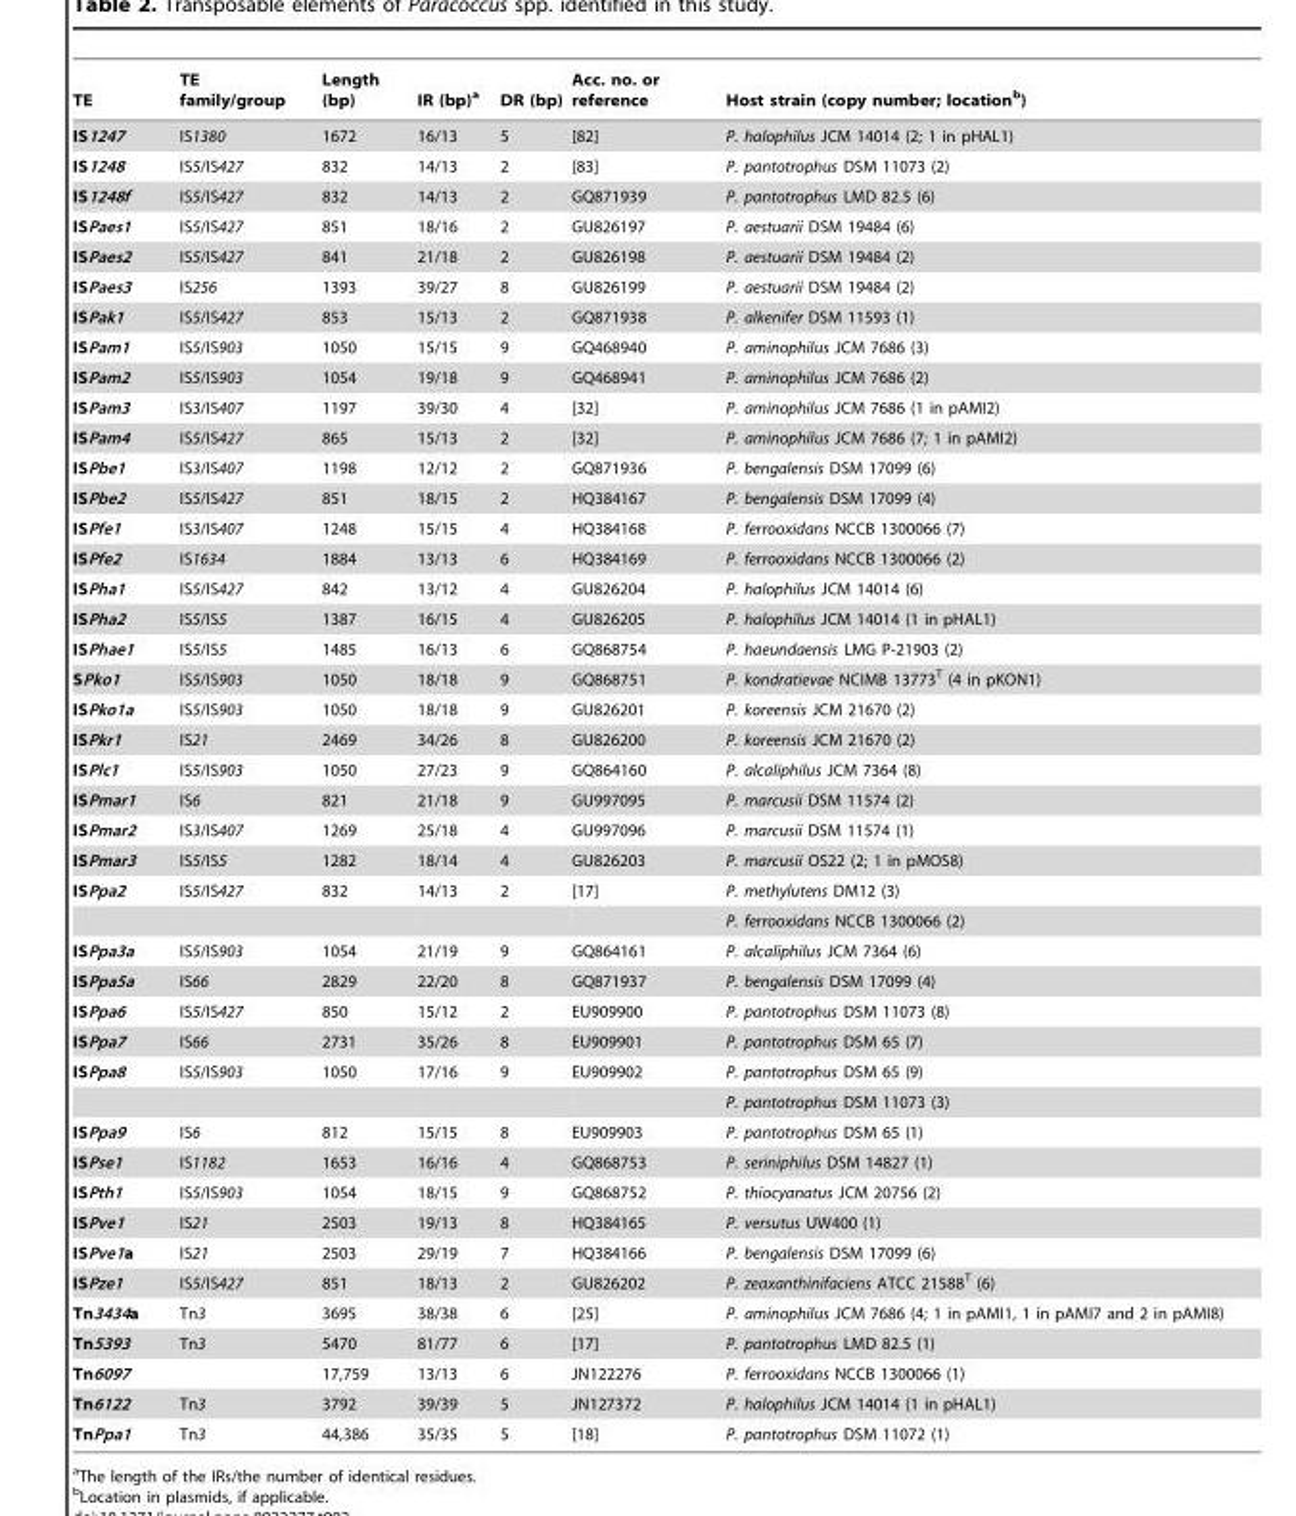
<table><thead><tr><td>TE</td><td>TE family/group</td><td>Length (bp)</td><td>IR (bp)<sup>a</sup></td><td>DR (bp)</td><td>Acc. no. or reference</td><td>Host strain (copy number; location<sup>b</sup>)</td></tr></thead><tbody><tr><td>IS1247</td><td>IS1380</td><td>1672</td><td>16/13</td><td>5</td><td>[82]</td><td>P. halophilus JCM 14014 (2; 1 in pHAL1)</td></tr><tr><td>IS1248</td><td>IS5/IS427</td><td>832</td><td>14/13</td><td>2</td><td>[83]</td><td>P. pantotrophus DSM 11073 (2)</td></tr><tr><td>IS1248f</td><td>IS5/IS427</td><td>832</td><td>14/13</td><td>2</td><td>GQ871939</td><td>P. pantotrophus LMD 82.5 (6)</td></tr><tr><td>ISPaes1</td><td>IS5/IS427</td><td>851</td><td>18/16</td><td>2</td><td>GU826197</td><td>P. aestuarii DSM 19484 (6)</td></tr><tr><td>ISPaes2</td><td>IS5/IS427</td><td>841</td><td>21/18</td><td>2</td><td>GU826198</td><td>P. aestuarii DSM 19484 (2)</td></tr><tr><td>ISPaes3</td><td>IS256</td><td>1393</td><td>39/27</td><td>8</td><td>GU826199</td><td>P. aestuarii DSM 19484 (2)</td></tr><tr><td>ISPak1</td><td>IS5/IS427</td><td>853</td><td>15/13</td><td>2</td><td>GQ871938</td><td>P. alkenifer DSM 11593 (1)</td></tr><tr><td>ISPam1</td><td>IS5/IS903</td><td>1050</td><td>15/15</td><td>9</td><td>GQ468940</td><td>P. aminophilus JCM 7686 (3)</td></tr><tr><td>ISPam2</td><td>IS5/IS903</td><td>1054</td><td>19/18</td><td>9</td><td>GQ468941</td><td>P. aminophilus JCM 7686 (2)</td></tr><tr><td>ISPam3</td><td>IS3/IS407</td><td>1197</td><td>39/30</td><td>4</td><td>[32]</td><td>P. aminophilus JCM 7686 (1 in pAMI2)</td></tr><tr><td>ISPam4</td><td>IS5/IS427</td><td>865</td><td>15/13</td><td>2</td><td>[32]</td><td>P. aminophilus JCM 7686 (7; 1 in pAMI2)</td></tr><tr><td>ISPbe1</td><td>IS3/IS407</td><td>1198</td><td>12/12</td><td>2</td><td>GQ871936</td><td>P. bengalensis DSM 17099 (6)</td></tr><tr><td>ISPbe2</td><td>IS5/IS427</td><td>851</td><td>18/15</td><td>2</td><td>HQ384167</td><td>P. bengalensis DSM 17099 (4)</td></tr><tr><td>ISPfe1</td><td>IS3/IS407</td><td>1248</td><td>15/15</td><td>4</td><td>HQ384168</td><td>P. ferrooxidans NCCB 1300066 (7)</td></tr><tr><td>ISPfe2</td><td>IS1634</td><td>1884</td><td>13/13</td><td>6</td><td>HQ384169</td><td>P. ferrooxidans NCCB 1300066 (2)</td></tr><tr><td>ISPha1</td><td>IS5/IS427</td><td>842</td><td>13/12</td><td>4</td><td>GU826204</td><td>P. halophilus JCM 14014 (6)</td></tr><tr><td>ISPha2</td><td>IS5/IS5</td><td>1387</td><td>16/15</td><td>4</td><td>GU826205</td><td>P. halophilus JCM 14014 (1 in pHAL1)</td></tr><tr><td>ISPhae1</td><td>IS5/IS5</td><td>1485</td><td>16/13</td><td>6</td><td>GQ868754</td><td>P. haeundaensis LMG P-21903 (2)</td></tr><tr><td>SPko1</td><td>IS5/IS903</td><td>1050</td><td>18/18</td><td>9</td><td>GQ868751</td><td>P. kondratievae NCIMB 13773<sup>T</sup> (4 in pKON1)</td></tr><tr><td>ISPko1a</td><td>IS5/IS903</td><td>1050</td><td>18/18</td><td>9</td><td>GU826201</td><td>P. koreensis JCM 21670 (2)</td></tr><tr><td>ISPkr1</td><td>IS21</td><td>2469</td><td>34/26</td><td>8</td><td>GU826200</td><td>P. koreensis JCM 21670 (2)</td></tr><tr><td>ISPlc1</td><td>IS5/IS903</td><td>1050</td><td>27/23</td><td>9</td><td>GQ864160</td><td>P. alcaliphilus JCM 7364 (8)</td></tr><tr><td>ISPmar1</td><td>IS6</td><td>821</td><td>21/18</td><td>9</td><td>GU997095</td><td>P. marcusii DSM 11574 (2)</td></tr><tr><td>ISPmar2</td><td>IS3/IS407</td><td>1269</td><td>25/18</td><td>4</td><td>GU997096</td><td>P. marcusii DSM 11574 (1)</td></tr><tr><td>ISPmar3</td><td>IS5/IS5</td><td>1282</td><td>18/14</td><td>4</td><td>GU826203</td><td>P. marcusii OS22 (2; 1 in pMOS8)</td></tr><tr><td rowspan="2">ISPpa2</td><td>IS5/IS427</td><td>832</td><td>14/13</td><td>2</td><td>[17]</td><td>P. methylutens DM12 (3)</td></tr><tr><td></td><td></td><td></td><td></td><td></td><td>P. ferrooxidans NCCB 1300066 (2)</td></tr><tr><td>ISPpa3a</td><td>IS5/IS903</td><td>1054</td><td>21/19</td><td>9</td><td>GQ864161</td><td>P. alcaliphilus JCM 7364 (6)</td></tr><tr><td>ISPpa5a</td><td>IS66</td><td>2829</td><td>22/20</td><td>8</td><td>GQ871937</td><td>P. bengalensis DSM 17099 (4)</td></tr><tr><td>ISPpa6</td><td>IS5/IS427</td><td>850</td><td>15/12</td><td>2</td><td>EU909900</td><td>P. pantotrophus DSM 11073 (8)</td></tr><tr><td>ISPpa7</td><td>IS66</td><td>2731</td><td>35/26</td><td>8</td><td>EU909901</td><td>P. pantotrophus DSM 65 (7)</td></tr><tr><td rowspan="2">ISPpa8</td><td>IS5/IS903</td><td>1050</td><td>17/16</td><td>9</td><td>EU909902</td><td>P. pantotrophus DSM 65 (9)</td></tr><tr><td></td><td></td><td></td><td></td><td></td><td>P. pantotrophus DSM 11073 (3)</td></tr><tr><td>ISPpa9</td><td>IS6</td><td>812</td><td>15/15</td><td>8</td><td>EU909903</td><td>P. pantotrophus DSM 65 (1)</td></tr><tr><td>ISPse1</td><td>IS1182</td><td>1653</td><td>16/16</td><td>4</td><td>GQ868753</td><td>P. seriniphilus DSM 14827 (1)</td></tr><tr><td>ISPth1</td><td>IS5/IS903</td><td>1054</td><td>18/15</td><td>9</td><td>GQ868752</td><td>P. thiocyanatus JCM 20756 (2)</td></tr><tr><td>ISPve1</td><td>IS21</td><td>2503</td><td>19/13</td><td>8</td><td>HQ384165</td><td>P. versutus UW400 (1)</td></tr><tr><td>ISPve1a</td><td>IS21</td><td>2503</td><td>29/19</td><td>7</td><td>HQ384166</td><td>P. bengalensis DSM 17099 (6)</td></tr><tr><td>ISPze1</td><td>IS5/IS427</td><td>851</td><td>18/13</td><td>2</td><td>GU826202</td><td>P. zeaxanthinifaciens ATCC 21588<sup>T</sup> (6)</td></tr><tr><td>Tn3434a</td><td>Tn3</td><td>3695</td><td>38/38</td><td>6</td><td>[25]</td><td>P. aminophilus JCM 7686 (4; 1 in pAMI1, 1 in pAMI7 and 2 in pAMI8)</td></tr><tr><td>Tn5393</td><td>Tn3</td><td>5470</td><td>81/77</td><td>6</td><td>[17]</td><td>P. pantotrophus LMD 82.5 (1)</td></tr><tr><td>Tn6097</td><td></td><td>17,759</td><td>13/13</td><td>6</td><td>JN122276</td><td>P. ferrooxidans NCCB 1300066 (1)</td></tr><tr><td>Tn6122</td><td>Tn3</td><td>3792</td><td>39/39</td><td>5</td><td>JN127372</td><td>P. halophilus JCM 14014 (1 in pHAL1)</td></tr><tr><td>TnPpa1</td><td>Tn3</td><td>44,386</td><td>35/35</td><td>5</td><td>[18]</td><td>P. pantotrophus DSM 11072 (1)</td></tr></tbody></table>